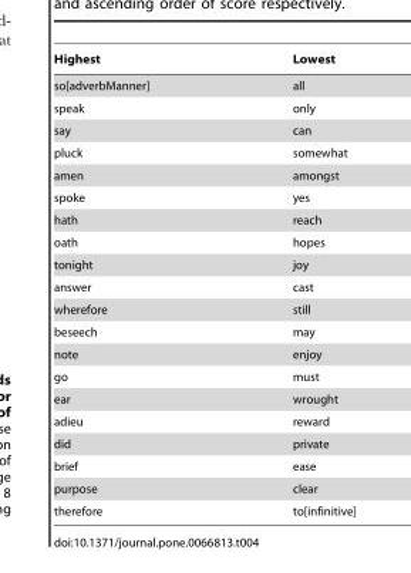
<table><thead><tr><td>Highest</td><td>Lowest</td></tr></thead><tbody><tr><td>so[adverbManner]</td><td>all</td></tr><tr><td>speak</td><td>only</td></tr><tr><td>say</td><td>can</td></tr><tr><td>pluck</td><td>somewhat</td></tr><tr><td>amen</td><td>amongst</td></tr><tr><td>spoke</td><td>yes</td></tr><tr><td>hath</td><td>reach</td></tr><tr><td>oath</td><td>hopes</td></tr><tr><td>tonight</td><td>joy</td></tr><tr><td>answer</td><td>cast</td></tr><tr><td>wherefore</td><td>still</td></tr><tr><td>beseech</td><td>may</td></tr><tr><td>note</td><td>enjoy</td></tr><tr><td>go</td><td>must</td></tr><tr><td>ear</td><td>wrought</td></tr><tr><td>adieu</td><td>reward</td></tr><tr><td>did</td><td>private</td></tr><tr><td>brief</td><td>ease</td></tr><tr><td>purpose</td><td>clear</td></tr><tr><td>therefore</td><td>to[infinitive]</td></tr></tbody></table>